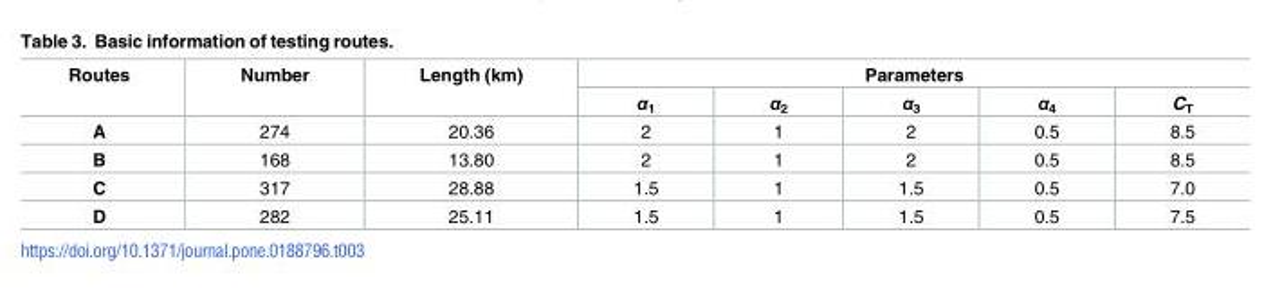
<table><thead><tr><td rowspan="2">Routes</td><td rowspan="2">Number</td><td rowspan="2">Length (km)</td><td colspan="5">Parameters</td></tr><tr><td>α<sub>1</sub></td><td>α<sub>2</sub></td><td>α<sub>3</sub></td><td>α<sub>4</sub></td><td>C<sub>T</sub></td></tr></thead><tbody><tr><td>A</td><td>274</td><td>20.36</td><td>2</td><td>1</td><td>2</td><td>0.5</td><td>8.5</td></tr><tr><td>B</td><td>168</td><td>13.80</td><td>2</td><td>1</td><td>2</td><td>0.5</td><td>8.5</td></tr><tr><td>C</td><td>317</td><td>28.88</td><td>1.5</td><td>1</td><td>1.5</td><td>0.5</td><td>7.0</td></tr><tr><td>D</td><td>282</td><td>25.11</td><td>1.5</td><td>1</td><td>1.5</td><td>0.5</td><td>7.5</td></tr></tbody></table>